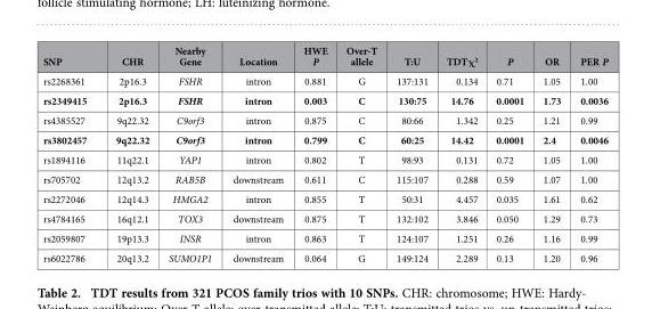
<table><thead><tr><td>SNP</td><td>CHR</td><td>Nearby Gene</td><td>Location</td><td>HWE P</td><td>Over-T allele</td><td>T:U</td><td>TDTχ<sup>2</sup></td><td>P</td><td>OR</td><td>PER P</td></tr></thead><tbody><tr><td>rs2268361</td><td>2p16.3</td><td>FSHR</td><td>intron</td><td>0.881</td><td>G</td><td>137:131</td><td>0.134</td><td>0.71</td><td>1.05</td><td>1.00</td></tr><tr><td>rs2349415</td><td>2p16.3</td><td>FSHR</td><td>intron</td><td>0.003</td><td>C</td><td>130:75</td><td>14.76</td><td>0.0001</td><td>1.73</td><td>0.0036</td></tr><tr><td>rs4385527</td><td>9q22.32</td><td>C9orf3</td><td>intron</td><td>0.875</td><td>C</td><td>80:66</td><td>1.342</td><td>0.25</td><td>1.21</td><td>0.99</td></tr><tr><td>rs3802457</td><td>9q22.32</td><td>C9orf3</td><td>intron</td><td>0.799</td><td>C</td><td>60:25</td><td>14.42</td><td>0.0001</td><td>2.4</td><td>0.0046</td></tr><tr><td>rs1894116</td><td>11q22.1</td><td>YAP1</td><td>intron</td><td>0.802</td><td>T</td><td>98:93</td><td>0.131</td><td>0.72</td><td>1.05</td><td>1.00</td></tr><tr><td>rs705702</td><td>12q13.2</td><td>RAB5B</td><td>downstream</td><td>0.611</td><td>C</td><td>115:107</td><td>0.288</td><td>0.59</td><td>1.07</td><td>1.00</td></tr><tr><td>rs2272046</td><td>12q14.3</td><td>HMGA2</td><td>intron</td><td>0.855</td><td>T</td><td>50:31</td><td>4.457</td><td>0.035</td><td>1.61</td><td>0.62</td></tr><tr><td>rs4784165</td><td>16q12.1</td><td>TOX3</td><td>downstream</td><td>0.875</td><td>T</td><td>132:102</td><td>3.846</td><td>0.050</td><td>1.29</td><td>0.73</td></tr><tr><td>rs2059807</td><td>19p13.3</td><td>INSR</td><td>intron</td><td>0.863</td><td>T</td><td>124:107</td><td>1.251</td><td>0.26</td><td>1.16</td><td>0.99</td></tr><tr><td>rs6022786</td><td>20q13.2</td><td>SUMO1P1</td><td>downstream</td><td>0.064</td><td>G</td><td>149:124</td><td>2.289</td><td>0.13</td><td>1.20</td><td>0.96</td></tr></tbody></table>